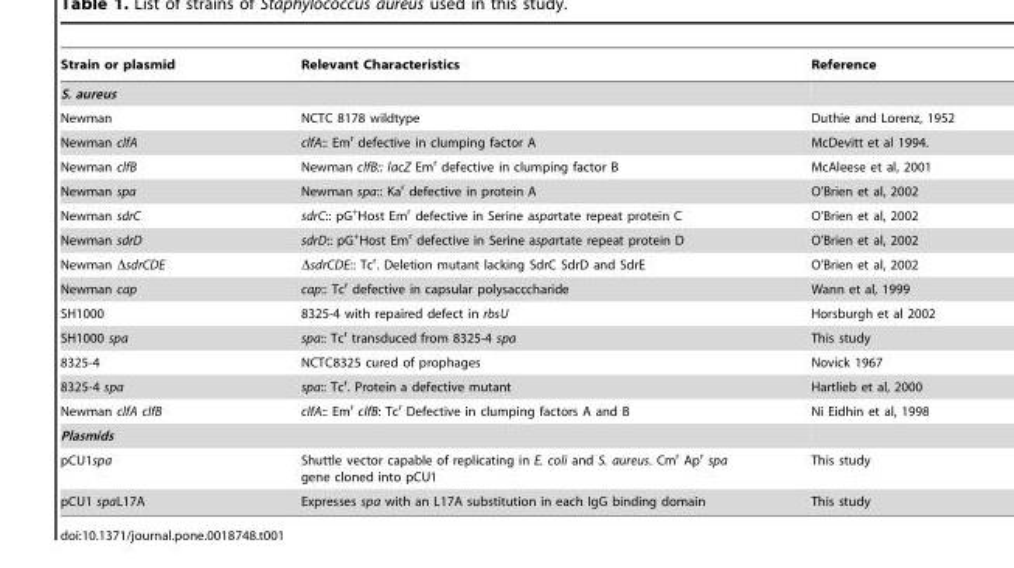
<table><thead><tr><td>Strain or plasmid</td><td>Relevant Characteristics</td><td>Reference</td></tr></thead><tbody><tr><td colspan="3">S. aureus</td></tr><tr><td>Newman</td><td>NCTC 8178 wildtype</td><td>Duthie and Lorenz, 1952</td></tr><tr><td>Newman clfA</td><td>clfA:: Em<sup>r</sup> defective in clumping factor A</td><td>McDevitt et al 1994.</td></tr><tr><td>Newman clfB</td><td>Newman clfB:: lacZ Em<sup>r</sup> defective in clumping factor B</td><td>McAleese et al, 2001</td></tr><tr><td>Newman spa</td><td>Newman spa:: Ka<sup>r</sup> defective in protein A</td><td>O’Brien et al, 2002</td></tr><tr><td>Newman sdrC</td><td>sdrC:: pG<sup>+</sup>Host Em<sup>r</sup> defective in Serine aspartate repeat protein C</td><td>O’Brien et al, 2002</td></tr><tr><td>Newman sdrD</td><td>sdrD:: pG<sup>+</sup>Host Em<sup>r</sup> defective in Serine aspartate repeat protein D</td><td>O’Brien et al, 2002</td></tr><tr><td>Newman ΔsdrCDE</td><td>ΔsdrCDE:: Tc<sup>r</sup>. Deletion mutant lacking SdrC SdrD and SdrE</td><td>O’Brien et al, 2002</td></tr><tr><td>Newman cap</td><td>cap:: Tc<sup>r</sup> defective in capsular polysacccharide</td><td>Wann et al, 1999</td></tr><tr><td>SH1000</td><td>8325-4 with repaired defect in rbsU</td><td>Horsburgh et al 2002</td></tr><tr><td>SH1000 spa</td><td>spa:: Tc<sup>r</sup> transduced from 8325-4 spa</td><td>This study</td></tr><tr><td>8325-4</td><td>NCTC8325 cured of prophages</td><td>Novick 1967</td></tr><tr><td>8325-4 spa</td><td>spa:: Tc<sup>r</sup>. Protein a defective mutant</td><td>Hartlieb et al, 2000</td></tr><tr><td>Newman clfA clfB</td><td>clfA:: Em<sup>r</sup> clfB: Tc<sup>r</sup> Defective in clumping factors A and B</td><td>Ni Eidhin et al, 1998</td></tr><tr><td colspan="3">Plasmids</td></tr><tr><td>pCU1spa</td><td>Shuttle vector capable of replicating in E. coli and S. aureus. Cm<sup>r</sup> Ap<sup>r</sup> spa gene cloned into pCU1</td><td>This study</td></tr><tr><td>pCU1 spaL17A</td><td>Expresses spa with an L17A substitution in each IgG binding domain</td><td>This study</td></tr></tbody></table>